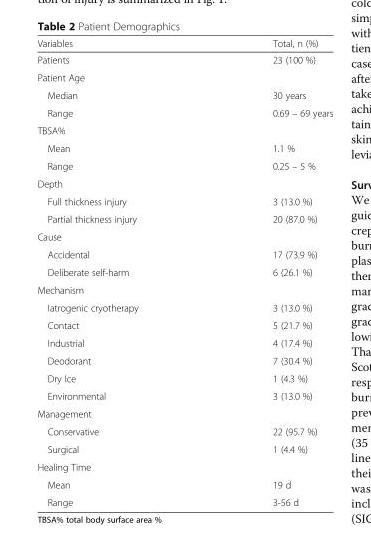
<table><thead><tr><td>Variables</td><td>Total, n (%)</td></tr></thead><tbody><tr><td>Patients</td><td>23 (100 %)</td></tr><tr><td colspan="2">Patient Age</td></tr><tr><td>Median</td><td>30 years</td></tr><tr><td>Range</td><td>0.69 – 69 years</td></tr><tr><td colspan="2">TBSA%</td></tr><tr><td>Mean</td><td>1.1 %</td></tr><tr><td>Range</td><td>0.25 – 5 %</td></tr><tr><td colspan="2">Depth</td></tr><tr><td>Full thickness injury</td><td>3 (13.0 %)</td></tr><tr><td>Partial thickness injury</td><td>20 (87.0 %)</td></tr><tr><td colspan="2">Cause</td></tr><tr><td>Accidental</td><td>17 (73.9 %)</td></tr><tr><td>Deliberate self-harm</td><td>6 (26.1 %)</td></tr><tr><td colspan="2">Mechanism</td></tr><tr><td>Iatrogenic cryotherapy</td><td>3 (13.0 %)</td></tr><tr><td>Contact</td><td>5 (21.7 %)</td></tr><tr><td>Industrial</td><td>4 (17.4 %)</td></tr><tr><td>Deodorant</td><td>7 (30.4 %)</td></tr><tr><td>Dry Ice</td><td>1 (4.3 %)</td></tr><tr><td>Environmental</td><td>3 (13.0 %)</td></tr><tr><td colspan="2">Management</td></tr><tr><td>Conservative</td><td>22 (95.7 %)</td></tr><tr><td>Surgical</td><td>1 (4.4 %)</td></tr><tr><td colspan="2">Healing Time</td></tr><tr><td>Mean</td><td>19 d</td></tr><tr><td>Range</td><td>3-56 d</td></tr></tbody></table>